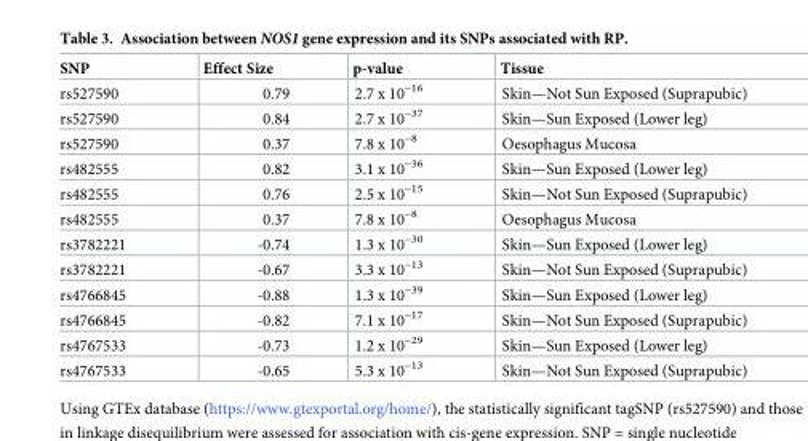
<table><thead><tr><td>SNP</td><td>Effect Size</td><td>p-value</td><td>Tissue</td></tr></thead><tbody><tr><td>rs527590</td><td>0.79</td><td>2.7 x 10<sup>−16</sup></td><td>Skin—Not Sun Exposed (Suprapubic)</td></tr><tr><td>rs527590</td><td>0.84</td><td>2.7 x 10<sup>−37</sup></td><td>Skin—Sun Exposed (Lower leg)</td></tr><tr><td>rs527590</td><td>0.37</td><td>7.8 x 10<sup>−8</sup></td><td>Oesophagus Mucosa</td></tr><tr><td>rs482555</td><td>0.82</td><td>3.1 x 10<sup>−36</sup></td><td>Skin—Sun Exposed (Lower leg)</td></tr><tr><td>rs482555</td><td>0.76</td><td>2.5 x 10<sup>−15</sup></td><td>Skin—Not Sun Exposed (Suprapubic)</td></tr><tr><td>rs482555</td><td>0.37</td><td>7.8 x 10<sup>−8</sup></td><td>Oesophagus Mucosa</td></tr><tr><td>rs3782221</td><td>-0.74</td><td>1.3 x 10<sup>−30</sup></td><td>Skin—Sun Exposed (Lower leg)</td></tr><tr><td>rs3782221</td><td>-0.67</td><td>3.3 x 10<sup>−13</sup></td><td>Skin—Not Sun Exposed (Suprapubic)</td></tr><tr><td>rs4766845</td><td>-0.88</td><td>1.3 x 10<sup>−39</sup></td><td>Skin—Sun Exposed (Lower leg)</td></tr><tr><td>rs4766845</td><td>-0.82</td><td>7.1 x 10<sup>−17</sup></td><td>Skin—Not Sun Exposed (Suprapubic)</td></tr><tr><td>rs4767533</td><td>-0.73</td><td>1.2 x 10<sup>−29</sup></td><td>Skin—Sun Exposed (Lower leg)</td></tr><tr><td>rs4767533</td><td>-0.65</td><td>5.3 x 10<sup>−13</sup></td><td>Skin—Not Sun Exposed (Suprapubic)</td></tr></tbody></table>